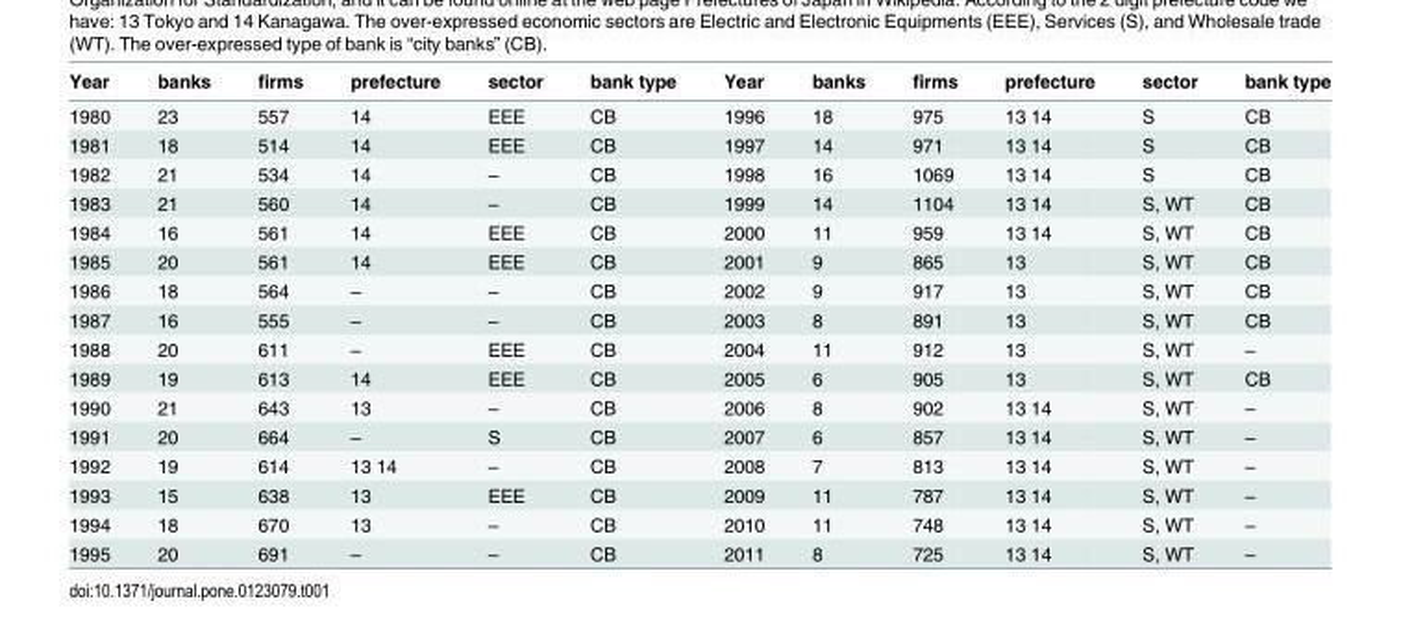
<table><thead><tr><td>Year</td><td>banks</td><td>firms</td><td>prefecture</td><td>sector</td><td>bank type</td><td>Year</td><td>banks</td><td>firms</td><td>prefecture</td><td>sector</td><td>bank type</td></tr></thead><tbody><tr><td>1980</td><td>23</td><td>557</td><td>14</td><td>EEE</td><td>CB</td><td>1996</td><td>18</td><td>975</td><td>13 14</td><td>S</td><td>CB</td></tr><tr><td>1981</td><td>18</td><td>514</td><td>14</td><td>EEE</td><td>CB</td><td>1997</td><td>14</td><td>971</td><td>13 14</td><td>S</td><td>CB</td></tr><tr><td>1982</td><td>21</td><td>534</td><td>14</td><td>–</td><td>CB</td><td>1998</td><td>16</td><td>1069</td><td>13 14</td><td>S</td><td>CB</td></tr><tr><td>1983</td><td>21</td><td>560</td><td>14</td><td>–</td><td>CB</td><td>1999</td><td>14</td><td>1104</td><td>13 14</td><td>S, WT</td><td>CB</td></tr><tr><td>1984</td><td>16</td><td>561</td><td>14</td><td>EEE</td><td>CB</td><td>2000</td><td>11</td><td>959</td><td>13 14</td><td>S, WT</td><td>CB</td></tr><tr><td>1985</td><td>20</td><td>561</td><td>14</td><td>EEE</td><td>CB</td><td>2001</td><td>9</td><td>865</td><td>13</td><td>S, WT</td><td>CB</td></tr><tr><td>1986</td><td>18</td><td>564</td><td>–</td><td>–</td><td>CB</td><td>2002</td><td>9</td><td>917</td><td>13</td><td>S, WT</td><td>CB</td></tr><tr><td>1987</td><td>16</td><td>555</td><td>–</td><td>–</td><td>CB</td><td>2003</td><td>8</td><td>891</td><td>13</td><td>S, WT</td><td>CB</td></tr><tr><td>1988</td><td>20</td><td>611</td><td>–</td><td>EEE</td><td>CB</td><td>2004</td><td>11</td><td>912</td><td>13</td><td>S, WT</td><td>–</td></tr><tr><td>1989</td><td>19</td><td>613</td><td>14</td><td>EEE</td><td>CB</td><td>2005</td><td>6</td><td>905</td><td>13</td><td>S, WT</td><td>CB</td></tr><tr><td>1990</td><td>21</td><td>643</td><td>13</td><td>–</td><td>CB</td><td>2006</td><td>8</td><td>902</td><td>13 14</td><td>S, WT</td><td>–</td></tr><tr><td>1991</td><td>20</td><td>664</td><td>–</td><td>S</td><td>CB</td><td>2007</td><td>6</td><td>857</td><td>13 14</td><td>S, WT</td><td>–</td></tr><tr><td>1992</td><td>19</td><td>614</td><td>13 14</td><td>–</td><td>CB</td><td>2008</td><td>7</td><td>813</td><td>13 14</td><td>S, WT</td><td>–</td></tr><tr><td>1993</td><td>15</td><td>638</td><td>13</td><td>EEE</td><td>CB</td><td>2009</td><td>11</td><td>787</td><td>13 14</td><td>S, WT</td><td>–</td></tr><tr><td>1994</td><td>18</td><td>670</td><td>13</td><td>–</td><td>CB</td><td>2010</td><td>11</td><td>748</td><td>13 14</td><td>S, WT</td><td>–</td></tr><tr><td>1995</td><td>20</td><td>691</td><td>–</td><td>–</td><td>CB</td><td>2011</td><td>8</td><td>725</td><td>13 14</td><td>S, WT</td><td>–</td></tr></tbody></table>